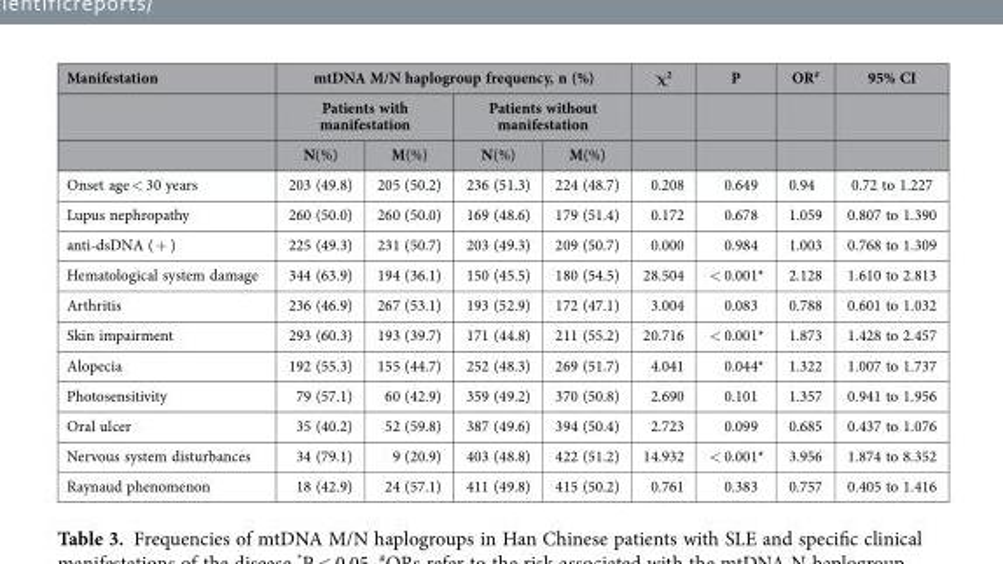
<table><thead><tr><td rowspan="3">Manifestation</td><td colspan="4">mtDNA M/N haplogroup frequency, n (%)</td><td rowspan="3">χ<sup>2</sup></td><td rowspan="3">P</td><td rowspan="3">OR#</td><td rowspan="3">95% CI</td></tr><tr><td colspan="2">Patients with manifestation</td><td colspan="2">Patients without manifestation</td></tr><tr><td>N(%)</td><td>M(%)</td><td>N(%)</td><td>M(%)</td></tr></thead><tbody><tr><td>Onset age &lt; 30 years</td><td>203 (49.8)</td><td>205 (50.2)</td><td>236 (51.3)</td><td>224 (48.7)</td><td>0.208</td><td>0.649</td><td>0.94</td><td>0.72 to 1.227</td></tr><tr><td>Lupus nephropathy</td><td>260 (50.0)</td><td>260 (50.0)</td><td>169 (48.6)</td><td>179 (51.4)</td><td>0.172</td><td>0.678</td><td>1.059</td><td>0.807 to 1.390</td></tr><tr><td>anti-dsDNA ( + )</td><td>225 (49.3)</td><td>231 (50.7)</td><td>203 (49.3)</td><td>209 (50.7)</td><td>0.000</td><td>0.984</td><td>1.003</td><td>0.768 to 1.309</td></tr><tr><td>Hematological system damage</td><td>344 (63.9)</td><td>194 (36.1)</td><td>150 (45.5)</td><td>180 (54.5)</td><td>28.504</td><td>&lt; 0.001*</td><td>2.128</td><td>1.610 to 2.813</td></tr><tr><td>Arthritis</td><td>236 (46.9)</td><td>267 (53.1)</td><td>193 (52.9)</td><td>172 (47.1)</td><td>3.004</td><td>0.083</td><td>0.788</td><td>0.601 to 1.032</td></tr><tr><td>Skin impairment</td><td>293 (60.3)</td><td>193 (39.7)</td><td>171 (44.8)</td><td>211 (55.2)</td><td>20.716</td><td>&lt; 0.001*</td><td>1.873</td><td>1.428 to 2.457</td></tr><tr><td>Alopecia</td><td>192 (55.3)</td><td>155 (44.7)</td><td>252 (48.3)</td><td>269 (51.7)</td><td>4.041</td><td>0.044*</td><td>1.322</td><td>1.007 to 1.737</td></tr><tr><td>Photosensitivity</td><td>79 (57.1)</td><td>60 (42.9)</td><td>359 (49.2)</td><td>370 (50.8)</td><td>2.690</td><td>0.101</td><td>1.357</td><td>0.941 to 1.956</td></tr><tr><td>Oral ulcer</td><td>35 (40.2)</td><td>52 (59.8)</td><td>387 (49.6)</td><td>394 (50.4)</td><td>2.723</td><td>0.099</td><td>0.685</td><td>0.437 to 1.076</td></tr><tr><td>Nervous system disturbances</td><td>34 (79.1)</td><td>9 (20.9)</td><td>403 (48.8)</td><td>422 (51.2)</td><td>14.932</td><td>&lt; 0.001*</td><td>3.956</td><td>1.874 to 8.352</td></tr><tr><td>Raynaud phenomenon</td><td>18 (42.9)</td><td>24 (57.1)</td><td>411 (49.8)</td><td>415 (50.2)</td><td>0.761</td><td>0.383</td><td>0.757</td><td>0.405 to 1.416</td></tr></tbody></table>